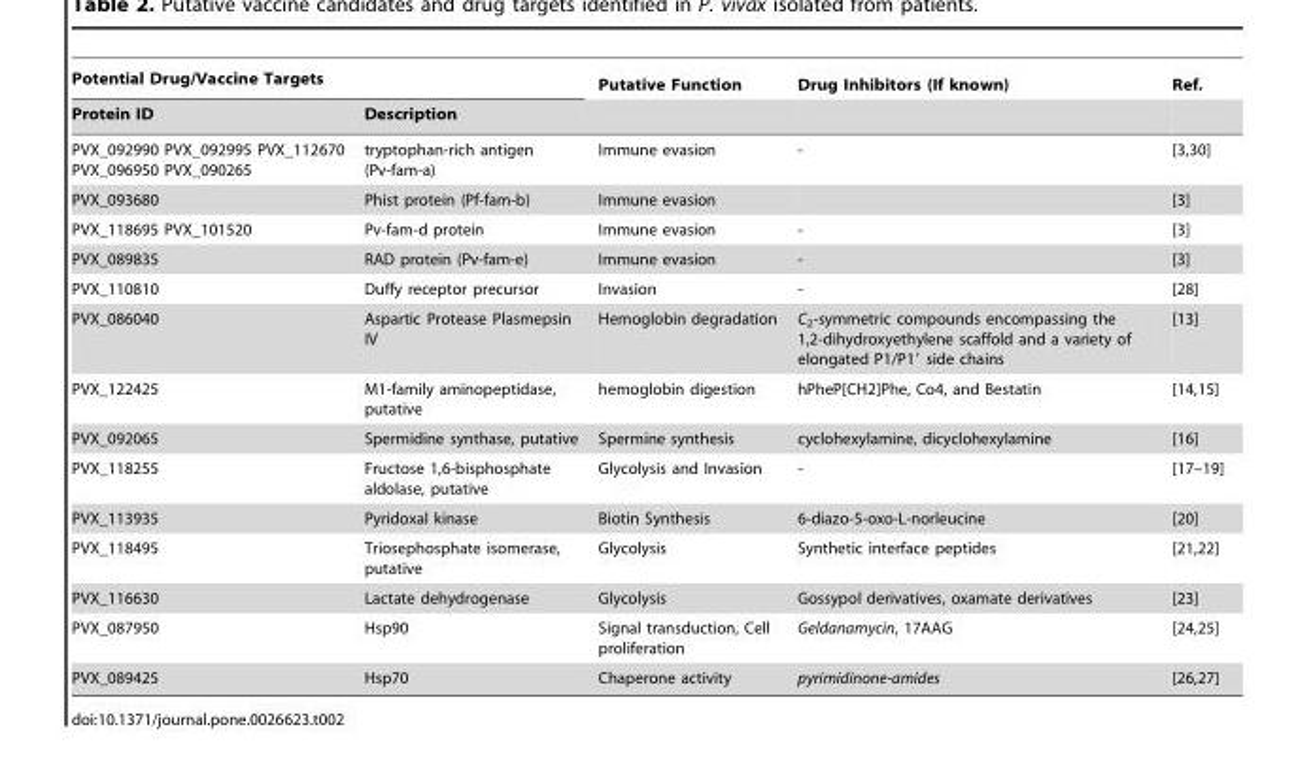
<table><thead><tr><td colspan="2">Potential Drug/Vaccine Targets</td><td rowspan="2">Putative Function</td><td rowspan="2">Drug Inhibitors (If known)</td><td rowspan="2">Ref.</td></tr><tr><td>Protein ID</td><td>Description</td></tr></thead><tbody><tr><td>PVX_092990 PVX_092995 PVX_112670 PVX_096950 PVX_090265</td><td>tryptophan-rich antigen (Pv-fam-a)</td><td>Immune evasion</td><td>-</td><td>[3,30]</td></tr><tr><td>PVX_093680</td><td>Phist protein (Pf-fam-b)</td><td>Immune evasion</td><td></td><td>[3]</td></tr><tr><td>PVX_118695 PVX_101520</td><td>Pv-fam-d protein</td><td>Immune evasion</td><td>-</td><td>[3]</td></tr><tr><td>PVX_089835</td><td>RAD protein (Pv-fam-e)</td><td>Immune evasion</td><td>-</td><td>[3]</td></tr><tr><td>PVX_110810</td><td>Duffy receptor precursor</td><td>Invasion</td><td>-</td><td>[28]</td></tr><tr><td>PVX_086040</td><td>Aspartic Protease Plasmepsin IV</td><td>Hemoglobin degradation</td><td>C<sub>2</sub>-symmetric compounds encompassing the 1,2-dihydroxyethylene scaffold and a variety of elongated P1/P1′ side chains</td><td>[13]</td></tr><tr><td>PVX_122425</td><td>M1-family aminopeptidase, putative</td><td>hemoglobin digestion</td><td>hPheP[CH2]Phe, Co4, and Bestatin</td><td>[14,15]</td></tr><tr><td>PVX_092065</td><td>Spermidine synthase, putative</td><td>Spermine synthesis</td><td>cyclohexylamine, dicyclohexylamine</td><td>[16]</td></tr><tr><td>PVX_118255</td><td>Fructose 1,6-bisphosphate aldolase, putative</td><td>Glycolysis and Invasion</td><td>-</td><td>[17–19]</td></tr><tr><td>PVX_113935</td><td>Pyridoxal kinase</td><td>Biotin Synthesis</td><td>6-diazo-5-oxo-L-norleucine</td><td>[20]</td></tr><tr><td>PVX_118495</td><td>Triosephosphate isomerase, putative</td><td>Glycolysis</td><td>Synthetic interface peptides</td><td>[21,22]</td></tr><tr><td>PVX_116630</td><td>Lactate dehydrogenase</td><td>Glycolysis</td><td>Gossypol derivatives, oxamate derivatives</td><td>[23]</td></tr><tr><td>PVX_087950</td><td>Hsp90</td><td>Signal transduction, Cell proliferation</td><td>Geldanamycin, 17AAG</td><td>[24,25]</td></tr><tr><td>PVX_089425</td><td>Hsp70</td><td>Chaperone activity</td><td>pyrimidinone-amides</td><td>[26,27]</td></tr></tbody></table>